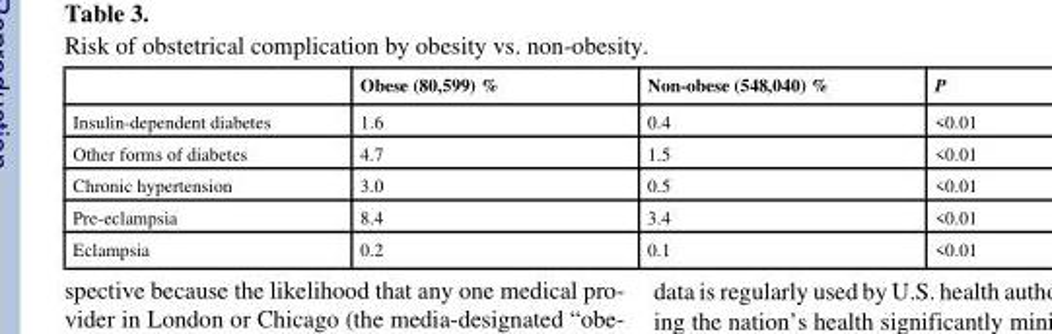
<table><thead><tr><td></td><td>Obese (80,599) %</td><td>Non-obese (548,040) %</td><td>P</td></tr></thead><tbody><tr><td>Insulin-dependent diabetes</td><td>1.6</td><td>0.4</td><td>&lt;0.01</td></tr><tr><td>Other forms of diabetes</td><td>4.7</td><td>1.5</td><td>&lt;0.01</td></tr><tr><td>Chronic hypertension</td><td>3.0</td><td>0.5</td><td>&lt;0.01</td></tr><tr><td>Pre-eclampsia</td><td>8.4</td><td>3.4</td><td>&lt;0.01</td></tr><tr><td>Eclampsia</td><td>0.2</td><td>0.1</td><td>&lt;0.01</td></tr></tbody></table>